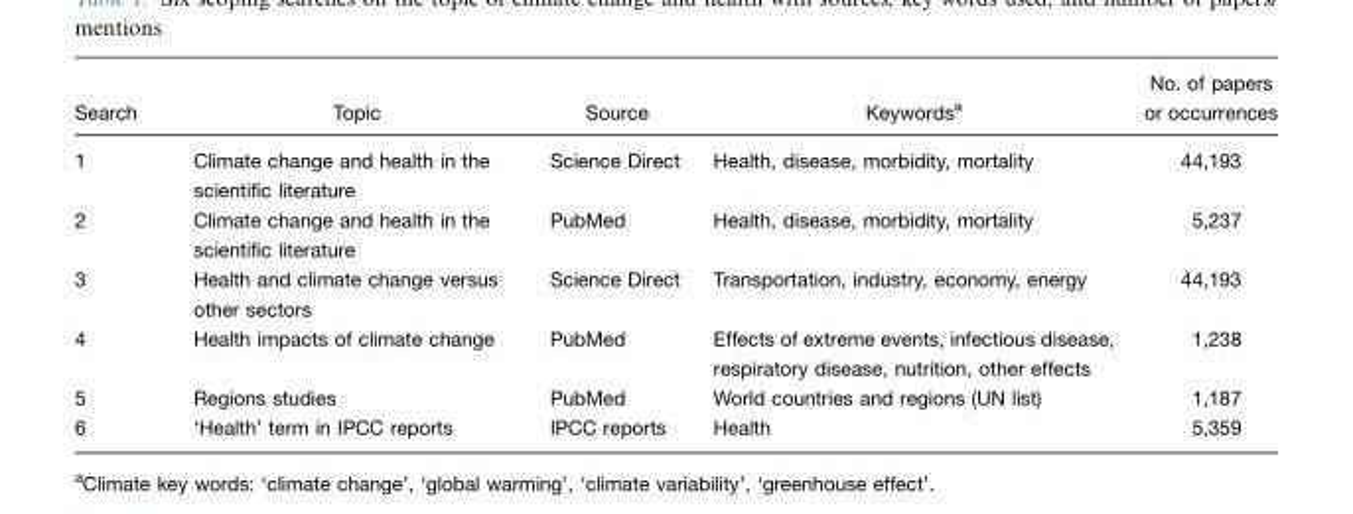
<table><thead><tr><td>Search</td><td>Topic</td><td>Source</td><td>Keywords<sup>a</sup></td><td>No. of papers or occurrences</td></tr></thead><tbody><tr><td>1</td><td>Climate change and health in the scientific literature</td><td>Science Direct</td><td>Health, disease, morbidity, mortality</td><td>44,193</td></tr><tr><td>2</td><td>Climate change and health in the scientific literature</td><td>PubMed</td><td>Health, disease, morbidity, mortality</td><td>5,237</td></tr><tr><td>3</td><td>Health and climate change versus other sectors</td><td>Science Direct</td><td>Transportation, industry, economy, energy</td><td>44,193</td></tr><tr><td>4</td><td>Health impacts of climate change</td><td>PubMed</td><td>Effects of extreme events, infectious disease, respiratory disease, nutrition, other effects</td><td>1,238</td></tr><tr><td>5</td><td>Regions studies</td><td>PubMed</td><td>World countries and regions (UN list)</td><td>1,187</td></tr><tr><td>6</td><td>‘Health’ term in IPCC reports</td><td>IPCC reports</td><td>Health</td><td>5,359</td></tr></tbody></table>